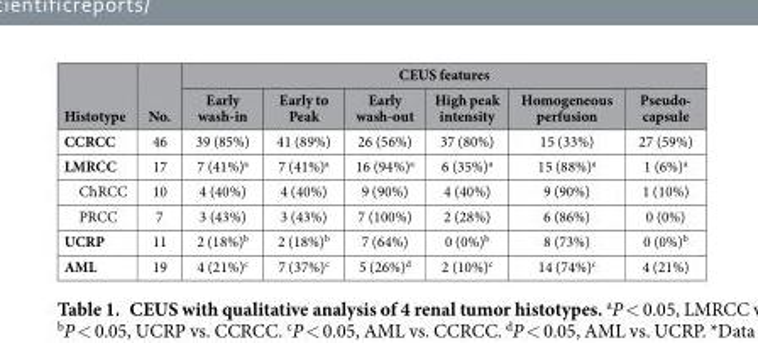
<table><thead><tr><td rowspan="2">Histotype</td><td rowspan="2">No.</td><td colspan="6">CEUS features</td></tr><tr><td>Early wash-in</td><td>Early to Peak</td><td>Early wash-out</td><td>High peak intensity</td><td>Homogeneous perfusion</td><td>Pseudo- capsule</td></tr></thead><tbody><tr><td>CCRCC</td><td>46</td><td>39 (85%)</td><td>41 (89%)</td><td>26 (56%)</td><td>37 (80%)</td><td>15 (33%)</td><td>27 (59%)</td></tr><tr><td>LMRCC</td><td>17</td><td>7 (41%)<sup>a</sup></td><td>7 (41%)<sup>a</sup></td><td>16 (94%)<sup>a</sup></td><td>6 (35%)<sup>a</sup></td><td>15 (88%)<sup>a</sup></td><td>1 (6%)<sup>a</sup></td></tr><tr><td>ChRCC</td><td>10</td><td>4 (40%)</td><td>4 (40%)</td><td>9 (90%)</td><td>4 (40%)</td><td>9 (90%)</td><td>1 (10%)</td></tr><tr><td>PRCC</td><td>7</td><td>3 (43%)</td><td>3 (43%)</td><td>7 (100%)</td><td>2 (28%)</td><td>6 (86%)</td><td>0 (0%)</td></tr><tr><td>UCRP</td><td>11</td><td>2 (18%)<sup>b</sup></td><td>2 (18%)<sup>b</sup></td><td>7 (64%)</td><td>0 (0%)<sup>b</sup></td><td>8 (73%)</td><td>0 (0%)<sup>b</sup></td></tr><tr><td>AML</td><td>19</td><td>4 (21%)<sup>c</sup></td><td>7 (37%)<sup>c</sup></td><td>5 (26%)<sup>d</sup></td><td>2 (10%)<sup>c</sup></td><td>14 (74%)<sup>c</sup></td><td>4 (21%)</td></tr></tbody></table>